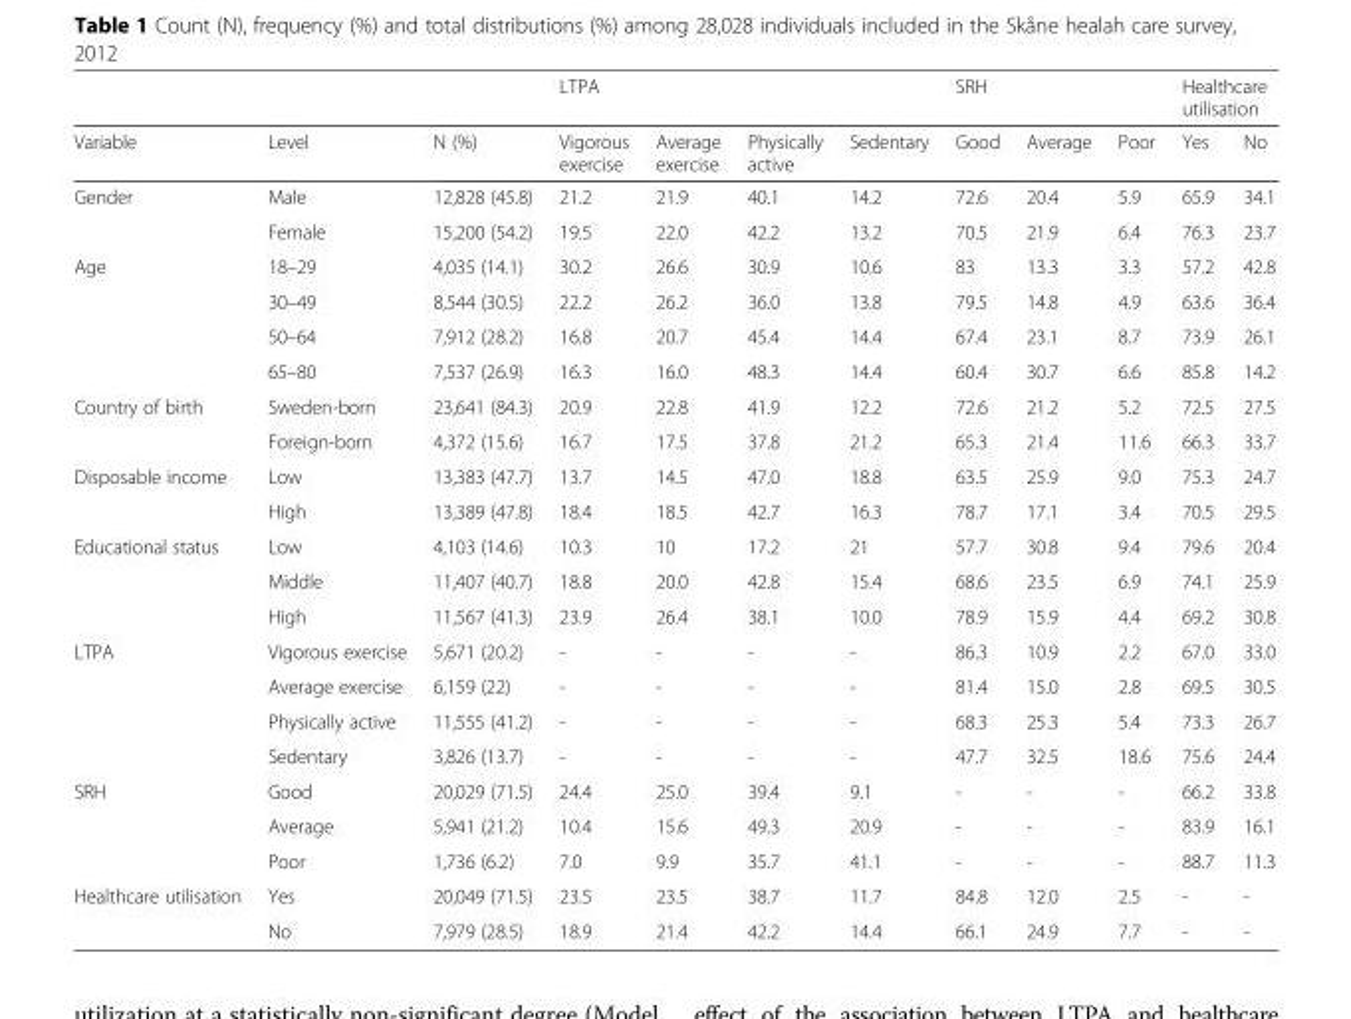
<table><thead><tr><td rowspan="2">Variable</td><td rowspan="2">Level</td><td rowspan="2">N (%)</td><td colspan="4">LTPA</td><td colspan="3">SRH</td><td colspan="2">Healthcare utilisation</td></tr><tr><td>Vigorous exercise</td><td>Average exercise</td><td>Physically active</td><td>Sedentary</td><td>Good</td><td>Average</td><td>Poor</td><td>Yes</td><td>No</td></tr></thead><tbody><tr><td rowspan="2">Gender</td><td>Male</td><td>12,828 (45.8)</td><td>21.2</td><td>21.9</td><td>40.1</td><td>14.2</td><td>72.6</td><td>20.4</td><td>5.9</td><td>65.9</td><td>34.1</td></tr><tr><td>Female</td><td>15,200 (54.2)</td><td>19.5</td><td>22.0</td><td>42.2</td><td>13.2</td><td>70.5</td><td>21.9</td><td>6.4</td><td>76.3</td><td>23.7</td></tr><tr><td rowspan="4">Age</td><td>18–29</td><td>4,035 (14.1)</td><td>30.2</td><td>26.6</td><td>30.9</td><td>10.6</td><td>83</td><td>13.3</td><td>3.3</td><td>57.2</td><td>42.8</td></tr><tr><td>30–49</td><td>8,544 (30.5)</td><td>22.2</td><td>26.2</td><td>36.0</td><td>13.8</td><td>79.5</td><td>14.8</td><td>4.9</td><td>63.6</td><td>36.4</td></tr><tr><td>50–64</td><td>7,912 (28.2)</td><td>16.8</td><td>20.7</td><td>45.4</td><td>14.4</td><td>67.4</td><td>23.1</td><td>8.7</td><td>73.9</td><td>26.1</td></tr><tr><td>65–80</td><td>7,537 (26.9)</td><td>16.3</td><td>16.0</td><td>48.3</td><td>14.4</td><td>60.4</td><td>30.7</td><td>6.6</td><td>85.8</td><td>14.2</td></tr><tr><td rowspan="2">Country of birth</td><td>Sweden-born</td><td>23,641 (84.3)</td><td>20.9</td><td>22.8</td><td>41.9</td><td>12.2</td><td>72.6</td><td>21.2</td><td>5.2</td><td>72.5</td><td>27.5</td></tr><tr><td>Foreign-born</td><td>4,372 (15.6)</td><td>16.7</td><td>17.5</td><td>37.8</td><td>21.2</td><td>65.3</td><td>21.4</td><td>11.6</td><td>66.3</td><td>33.7</td></tr><tr><td rowspan="2">Disposable income</td><td>Low</td><td>13,383 (47.7)</td><td>13.7</td><td>14.5</td><td>47.0</td><td>18.8</td><td>63.5</td><td>25.9</td><td>9.0</td><td>75.3</td><td>24.7</td></tr><tr><td>High</td><td>13,389 (47.8)</td><td>18.4</td><td>18.5</td><td>42.7</td><td>16.3</td><td>78.7</td><td>17.1</td><td>3.4</td><td>70.5</td><td>29.5</td></tr><tr><td rowspan="3">Educational status</td><td>Low</td><td>4,103 (14.6)</td><td>10.3</td><td>10</td><td>17.2</td><td>21</td><td>57.7</td><td>30.8</td><td>9.4</td><td>79.6</td><td>20.4</td></tr><tr><td>Middle</td><td>11,407 (40.7)</td><td>18.8</td><td>20.0</td><td>42.8</td><td>15.4</td><td>68.6</td><td>23.5</td><td>6.9</td><td>74.1</td><td>25.9</td></tr><tr><td>High</td><td>11,567 (41.3)</td><td>23.9</td><td>26.4</td><td>38.1</td><td>10.0</td><td>78.9</td><td>15.9</td><td>4.4</td><td>69.2</td><td>30.8</td></tr><tr><td rowspan="4">LTPA</td><td>Vigorous exercise</td><td>5,671 (20.2)</td><td>-</td><td>-</td><td>-</td><td>-</td><td>86.3</td><td>10.9</td><td>2.2</td><td>67.0</td><td>33.0</td></tr><tr><td>Average exercise</td><td>6,159 (22)</td><td>-</td><td>-</td><td>-</td><td>-</td><td>81.4</td><td>15.0</td><td>2.8</td><td>69.5</td><td>30.5</td></tr><tr><td>Physically active</td><td>11,555 (41.2)</td><td>-</td><td>-</td><td>-</td><td>-</td><td>68.3</td><td>25.3</td><td>5.4</td><td>73.3</td><td>26.7</td></tr><tr><td>Sedentary</td><td>3,826 (13.7)</td><td>-</td><td>-</td><td>-</td><td>-</td><td>47.7</td><td>32.5</td><td>18.6</td><td>75.6</td><td>24.4</td></tr><tr><td rowspan="3">SRH</td><td>Good</td><td>20,029 (71.5)</td><td>24.4</td><td>25.0</td><td>39.4</td><td>9.1</td><td>-</td><td>-</td><td>-</td><td>66.2</td><td>33.8</td></tr><tr><td>Average</td><td>5,941 (21.2)</td><td>10.4</td><td>15.6</td><td>49.3</td><td>20.9</td><td>-</td><td>-</td><td>-</td><td>83.9</td><td>16.1</td></tr><tr><td>Poor</td><td>1,736 (6.2)</td><td>7.0</td><td>9.9</td><td>35.7</td><td>41.1</td><td>-</td><td>-</td><td>-</td><td>88.7</td><td>11.3</td></tr><tr><td rowspan="2">Healthcare utilisation</td><td>Yes</td><td>20,049 (71.5)</td><td>23.5</td><td>23.5</td><td>38.7</td><td>11.7</td><td>84.8</td><td>12.0</td><td>2.5</td><td>-</td><td>-</td></tr><tr><td>No</td><td>7,979 (28.5)</td><td>18.9</td><td>21.4</td><td>42.2</td><td>14.4</td><td>66.1</td><td>24.9</td><td>7.7</td><td>-</td><td>-</td></tr></tbody></table>